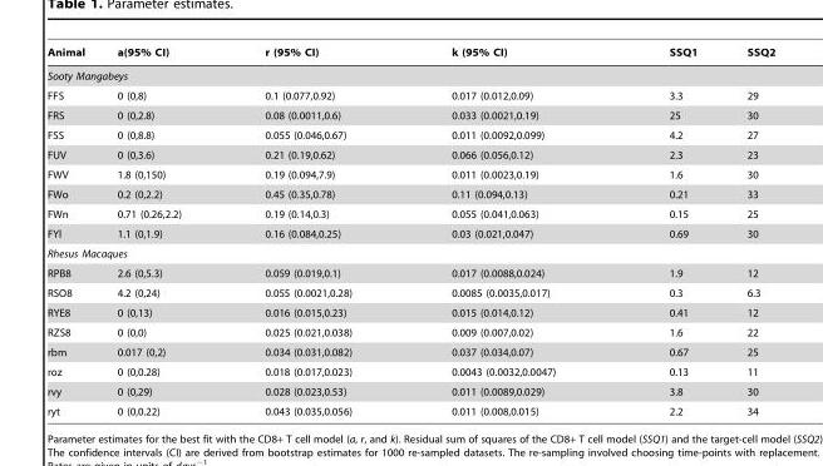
<table><thead><tr><td>Animal</td><td>a(95% CI)</td><td>r (95% CI)</td><td>k (95% CI)</td><td>SSQ1</td><td>SSQ2</td></tr></thead><tbody><tr><td colspan="6">Sooty Mangabeys</td></tr><tr><td>FFS</td><td>0 (0,8)</td><td>0.1 (0.077,0.92)</td><td>0.017 (0.012,0.09)</td><td>3.3</td><td>29</td></tr><tr><td>FRS</td><td>0 (0,2.8)</td><td>0.08 (0.0011,0.6)</td><td>0.033 (0.0021,0.19)</td><td>25</td><td>30</td></tr><tr><td>FSS</td><td>0 (0,8.8)</td><td>0.055 (0.046,0.67)</td><td>0.011 (0.0092,0.099)</td><td>4.2</td><td>27</td></tr><tr><td>FUV</td><td>0 (0,3.6)</td><td>0.21 (0.19,0.62)</td><td>0.066 (0.056,0.12)</td><td>2.3</td><td>23</td></tr><tr><td>FWV</td><td>1.8 (0,150)</td><td>0.19 (0.094,7.9)</td><td>0.011 (0.0023,0.19)</td><td>1.6</td><td>30</td></tr><tr><td>FWo</td><td>0.2 (0,2.2)</td><td>0.45 (0.35,0.78)</td><td>0.11 (0.094,0.13)</td><td>0.21</td><td>33</td></tr><tr><td>FWn</td><td>0.71 (0.26,2.2)</td><td>0.19 (0.14,0.3)</td><td>0.055 (0.041,0.063)</td><td>0.15</td><td>25</td></tr><tr><td>FYl</td><td>1.1 (0,1.9)</td><td>0.16 (0.084,0.25)</td><td>0.03 (0.021,0.047)</td><td>0.69</td><td>30</td></tr><tr><td colspan="6">Rhesus Macaques</td></tr><tr><td>RPB8</td><td>2.6 (0,5.3)</td><td>0.059 (0.019,0.1)</td><td>0.017 (0.0088,0.024)</td><td>1.9</td><td>12</td></tr><tr><td>RSO8</td><td>4.2 (0,24)</td><td>0.055 (0.0021,0.28)</td><td>0.0085 (0.0035,0.017)</td><td>0.3</td><td>6.3</td></tr><tr><td>RYE8</td><td>0 (0,13)</td><td>0.016 (0.015,0.23)</td><td>0.015 (0.014,0.12)</td><td>0.41</td><td>12</td></tr><tr><td>RZS8</td><td>0 (0,0)</td><td>0.025 (0.021,0.038)</td><td>0.009 (0.007,0.02)</td><td>1.6</td><td>22</td></tr><tr><td>rbm</td><td>0.017 (0,2)</td><td>0.034 (0.031,0.082)</td><td>0.037 (0.034,0.07)</td><td>0.67</td><td>25</td></tr><tr><td>roz</td><td>0 (0,0.28)</td><td>0.018 (0.017,0.023)</td><td>0.0043 (0.0032,0.0047)</td><td>0.13</td><td>11</td></tr><tr><td>rvy</td><td>0 (0,29)</td><td>0.028 (0.023,0.53)</td><td>0.011 (0.0089,0.029)</td><td>3.8</td><td>30</td></tr><tr><td>ryt</td><td>0 (0,0.22)</td><td>0.043 (0.035,0.056)</td><td>0.011 (0.008,0.015)</td><td>2.2</td><td>34</td></tr></tbody></table>